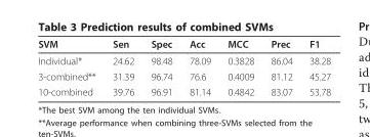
<table><thead><tr><td>SVM</td><td>Sen</td><td>Spec</td><td>Acc</td><td>MCC</td><td>Prec</td><td>F1</td></tr></thead><tbody><tr><td>Individual*</td><td>24.62</td><td>98.48</td><td>78.09</td><td>0.3828</td><td>86.04</td><td>38.28</td></tr><tr><td>3-combined**</td><td>31.39</td><td>96.74</td><td>76.6</td><td>0.4009</td><td>81.12</td><td>45.27</td></tr><tr><td>10-combined</td><td>39.76</td><td>96.91</td><td>81.14</td><td>0.4842</td><td>83.07</td><td>53.78</td></tr></tbody></table>